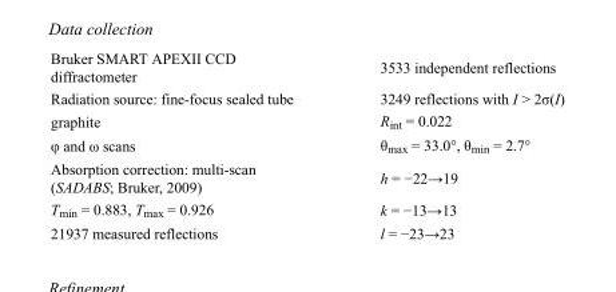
<table><tbody><tr><td>Bruker SMART APEXII CCD diffractometer</td><td>3533 independent reflections</td></tr><tr><td>Radiation source: fine-focus sealed tube</td><td>3249 reflections with I &gt; 2σ(I)</td></tr><tr><td>graphite</td><td>R<sub>int</sub> = 0.022</td></tr><tr><td>φ and ω scans</td><td>θ<sub>max</sub> = 33.0°, θ<sub>min</sub> = 2.7°</td></tr><tr><td>Absorption correction: multi-scan (SADABS; Bruker, 2009)</td><td>h = −22→19</td></tr><tr><td>T<sub>min</sub> = 0.883, T<sub>max</sub> = 0.926</td><td>k = −13→13</td></tr><tr><td>21937 measured reflections</td><td>l = −23→23</td></tr></tbody></table>